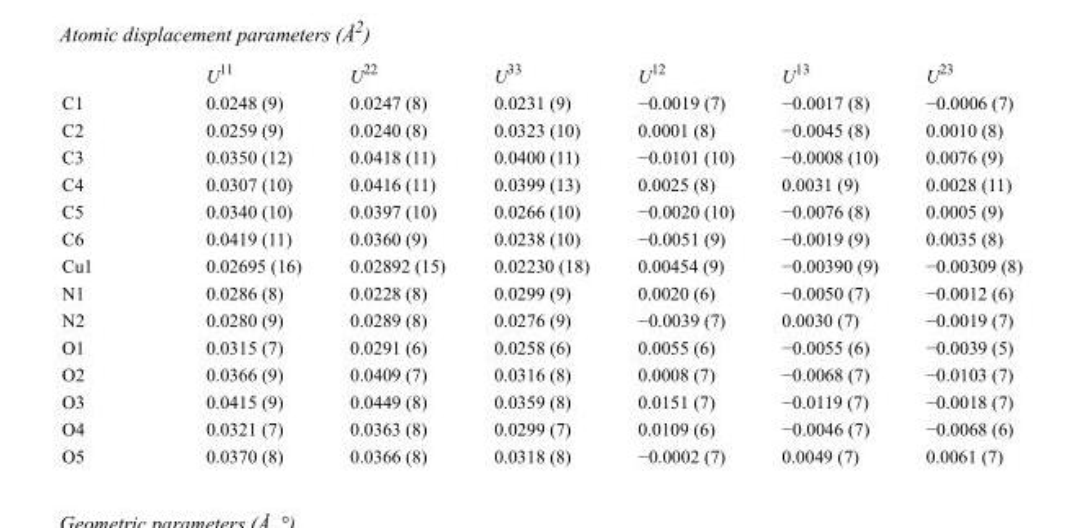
<table><thead><tr><td></td><td>U<sup>11</sup></td><td>U<sup>22</sup></td><td>U<sup>33</sup></td><td>U<sup>12</sup></td><td>U<sup>13</sup></td><td>U<sup>23</sup></td></tr></thead><tbody><tr><td>C1</td><td>0.0248 (9)</td><td>0.0247 (8)</td><td>0.0231 (9)</td><td>−0.0019 (7)</td><td>−0.0017 (8)</td><td>−0.0006 (7)</td></tr><tr><td>C2</td><td>0.0259 (9)</td><td>0.0240 (8)</td><td>0.0323 (10)</td><td>0.0001 (8)</td><td>−0.0045 (8)</td><td>0.0010 (8)</td></tr><tr><td>C3</td><td>0.0350 (12)</td><td>0.0418 (11)</td><td>0.0400 (11)</td><td>−0.0101 (10)</td><td>−0.0008 (10)</td><td>0.0076 (9)</td></tr><tr><td>C4</td><td>0.0307 (10)</td><td>0.0416 (11)</td><td>0.0399 (13)</td><td>0.0025 (8)</td><td>0.0031 (9)</td><td>0.0028 (11)</td></tr><tr><td>C5</td><td>0.0340 (10)</td><td>0.0397 (10)</td><td>0.0266 (10)</td><td>−0.0020 (10)</td><td>−0.0076 (8)</td><td>0.0005 (9)</td></tr><tr><td>C6</td><td>0.0419 (11)</td><td>0.0360 (9)</td><td>0.0238 (10)</td><td>−0.0051 (9)</td><td>−0.0019 (9)</td><td>0.0035 (8)</td></tr><tr><td>Cu1</td><td>0.02695 (16)</td><td>0.02892 (15)</td><td>0.02230 (18)</td><td>0.00454 (9)</td><td>−0.00390 (9)</td><td>−0.00309 (8)</td></tr><tr><td>N1</td><td>0.0286 (8)</td><td>0.0228 (8)</td><td>0.0299 (9)</td><td>0.0020 (6)</td><td>−0.0050 (7)</td><td>−0.0012 (6)</td></tr><tr><td>N2</td><td>0.0280 (9)</td><td>0.0289 (8)</td><td>0.0276 (9)</td><td>−0.0039 (7)</td><td>0.0030 (7)</td><td>−0.0019 (7)</td></tr><tr><td>O1</td><td>0.0315 (7)</td><td>0.0291 (6)</td><td>0.0258 (6)</td><td>0.0055 (6)</td><td>−0.0055 (6)</td><td>−0.0039 (5)</td></tr><tr><td>O2</td><td>0.0366 (9)</td><td>0.0409 (7)</td><td>0.0316 (8)</td><td>0.0008 (7)</td><td>−0.0068 (7)</td><td>−0.0103 (7)</td></tr><tr><td>O3</td><td>0.0415 (9)</td><td>0.0449 (8)</td><td>0.0359 (8)</td><td>0.0151 (7)</td><td>−0.0119 (7)</td><td>−0.0018 (7)</td></tr><tr><td>O4</td><td>0.0321 (7)</td><td>0.0363 (8)</td><td>0.0299 (7)</td><td>0.0109 (6)</td><td>−0.0046 (7)</td><td>−0.0068 (6)</td></tr><tr><td>O5</td><td>0.0370 (8)</td><td>0.0366 (8)</td><td>0.0318 (8)</td><td>−0.0002 (7)</td><td>0.0049 (7)</td><td>0.0061 (7)</td></tr></tbody></table>